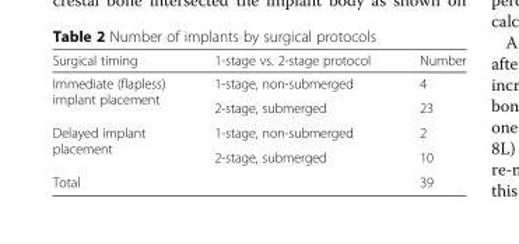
<table><thead><tr><td>Surgical timing</td><td>1-stage vs. 2-stage protocol</td><td>Number</td></tr></thead><tbody><tr><td rowspan="2">Immediate (flapless) implant placement</td><td>1-stage, non-submerged</td><td>4</td></tr><tr><td>2-stage, submerged</td><td>23</td></tr><tr><td rowspan="2">Delayed implant placement</td><td>1-stage, non-submerged</td><td>2</td></tr><tr><td>2-stage, submerged</td><td>10</td></tr><tr><td>Total</td><td></td><td>39</td></tr></tbody></table>